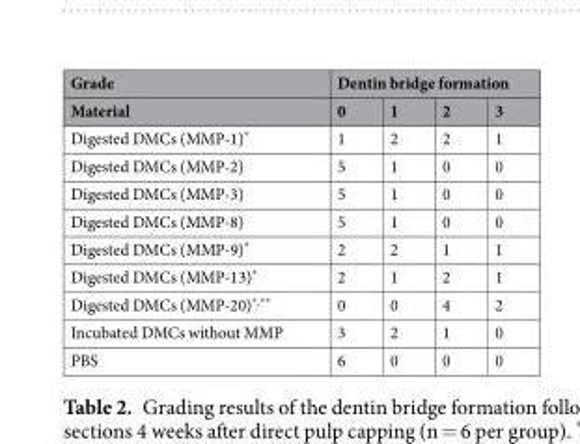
<table><thead><tr><td rowspan="2">Grade Material</td><td colspan="4">Dentin bridge formation</td></tr><tr><td>0</td><td>1</td><td>2</td><td>3</td></tr></thead><tbody><tr><td>Digested DMCs (MMP-1)*</td><td>1</td><td>2</td><td>2</td><td>1</td></tr><tr><td>Digested DMCs (MMP-2)</td><td>5</td><td>1</td><td>0</td><td>0</td></tr><tr><td>Digested DMCs (MMP-3)</td><td>5</td><td>1</td><td>0</td><td>0</td></tr><tr><td>Digested DMCs (MMP-8)</td><td>5</td><td>1</td><td>0</td><td>0</td></tr><tr><td>Digested DMCs (MMP-9)*</td><td>2</td><td>2</td><td>1</td><td>1</td></tr><tr><td>Digested DMCs (MMP-13)*</td><td>2</td><td>1</td><td>2</td><td>1</td></tr><tr><td>Digested DMCs (MMP-20)<sup>*,**</sup></td><td>0</td><td>0</td><td>4</td><td>2</td></tr><tr><td>Incubated DMCs without MMP</td><td>3</td><td>2</td><td>1</td><td>0</td></tr><tr><td>PBS</td><td>6</td><td>0</td><td>0</td><td>0</td></tr></tbody></table>